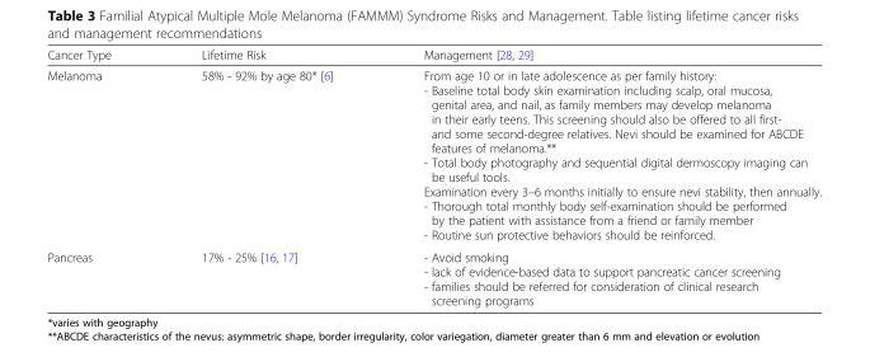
<table><thead><tr><td>Cancer Type</td><td>Lifetime Risk</td><td>Management [28, 29]</td></tr></thead><tbody><tr><td>Melanoma</td><td>58% - 92% by age 80* [6]</td><td>From age 10 or in late adolescence as per family history: - Baseline total body skin examination including scalp, oral mucosa, genital area, and nail, as family members may develop melanoma in their early teens. This screening should also be offered to all first- and some second-degree relatives. Nevi should be examined for ABCDE features of melanoma.** - Total body photography and sequential digital dermoscopy imaging can be useful tools. Examination every 3–6 months initially to ensure nevi stability, then annually. - Thorough total monthly body self-examination should be performed by the patient with assistance from a friend or family member - Routine sun protective behaviors should be reinforced.</td></tr><tr><td>Pancreas</td><td>17% - 25% [16, 17]</td><td>- Avoid smoking - lack of evidence-based data to support pancreatic cancer screening - families should be referred for consideration of clinical research screening programs</td></tr></tbody></table>